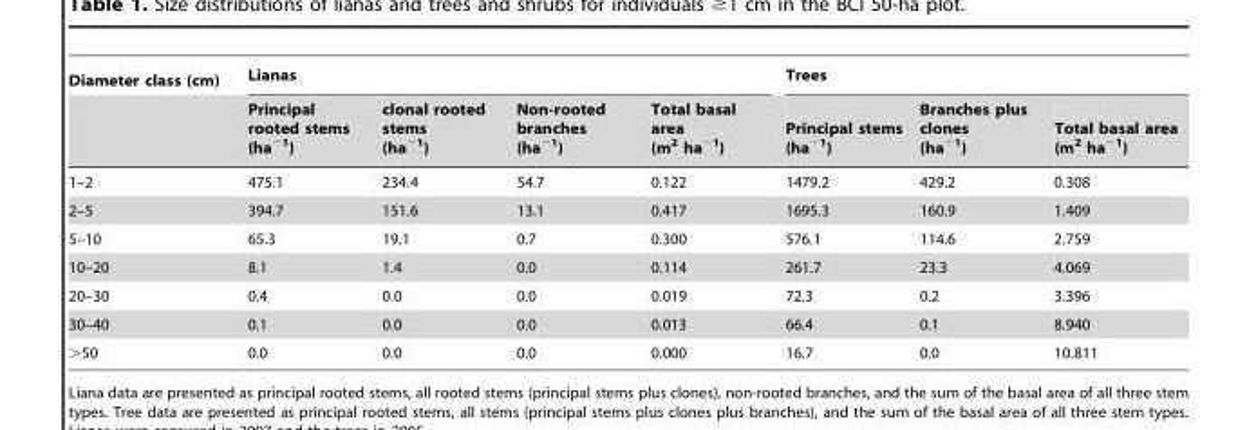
<table><thead><tr><td rowspan="2">Diameter class (cm)</td><td colspan="4">Lianas</td><td colspan="3">Trees</td></tr><tr><td>Principal rooted stems (ha<sup>−1</sup>)</td><td>clonal rooted stems (ha<sup>−1</sup>)</td><td>Non-rooted branches (ha<sup>−1</sup>)</td><td>Total basal area (m<sup>2</sup> ha<sup>−1</sup>)</td><td>Principal stems (ha<sup>−1</sup>)</td><td>Branches plus clones (ha<sup>−1</sup>)</td><td>Total basal area (m<sup>2</sup> ha<sup>−1</sup>)</td></tr></thead><tbody><tr><td>1–2</td><td>475.1</td><td>234.4</td><td>54.7</td><td>0.122</td><td>1479.2</td><td>429.2</td><td>0.308</td></tr><tr><td>2–5</td><td>394.7</td><td>151.6</td><td>13.1</td><td>0.417</td><td>1695.3</td><td>160.9</td><td>1.409</td></tr><tr><td>5–10</td><td>65.3</td><td>19.1</td><td>0.7</td><td>0.300</td><td>576.1</td><td>114.6</td><td>2.759</td></tr><tr><td>10–20</td><td>8.1</td><td>1.4</td><td>0.0</td><td>0.114</td><td>261.7</td><td>23.3</td><td>4.069</td></tr><tr><td>20–30</td><td>0.4</td><td>0.0</td><td>0.0</td><td>0.019</td><td>72.3</td><td>0.2</td><td>3.396</td></tr><tr><td>30–40</td><td>0.1</td><td>0.0</td><td>0.0</td><td>0.013</td><td>66.4</td><td>0.1</td><td>8.940</td></tr><tr><td>&gt;50</td><td>0.0</td><td>0.0</td><td>0.0</td><td>0.000</td><td>16.7</td><td>0.0</td><td>10.811</td></tr></tbody></table>